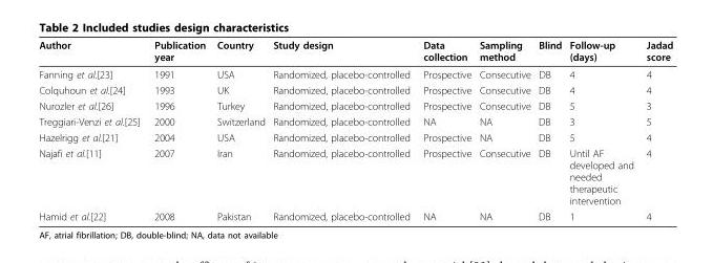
<table><thead><tr><td>Author</td><td>Publication year</td><td>Country</td><td>Study design</td><td>Data collection</td><td>Sampling method</td><td>Blind</td><td>Follow-up (days)</td><td>Jadad score</td></tr></thead><tbody><tr><td>Fanning et al.[23]</td><td>1991</td><td>USA</td><td>Randomized, placebo-controlled</td><td>Prospective</td><td>Consecutive</td><td>DB</td><td>4</td><td>4</td></tr><tr><td>Colquhoun et al.[24]</td><td>1993</td><td>UK</td><td>Randomized, placebo-controlled</td><td>Prospective</td><td>Consecutive</td><td>DB</td><td>4</td><td>4</td></tr><tr><td>Nurozler et al.[26]</td><td>1996</td><td>Turkey</td><td>Randomized, placebo-controlled</td><td>Prospective</td><td>Consecutive</td><td>DB</td><td>5</td><td>3</td></tr><tr><td>Treggiari-Venzi et al.[25]</td><td>2000</td><td>Switzerland</td><td>Randomized, placebo-controlled</td><td>NA</td><td>NA</td><td>DB</td><td>3</td><td>5</td></tr><tr><td>Hazelrigg et al.[21]</td><td>2004</td><td>USA</td><td>Randomized, placebo-controlled</td><td>Prospective</td><td>NA</td><td>DB</td><td>5</td><td>4</td></tr><tr><td>Najafi et al.[11]</td><td>2007</td><td>Iran</td><td>Randomized, placebo-controlled</td><td>Prospective</td><td>Consecutive</td><td>DB</td><td>Until AF developed and needed therapeutic intervention</td><td>4</td></tr><tr><td>Hamid et al.[22]</td><td>2008</td><td>Pakistan</td><td>Randomized, placebo-controlled</td><td>NA</td><td>NA</td><td>DB</td><td>1</td><td>4</td></tr></tbody></table>